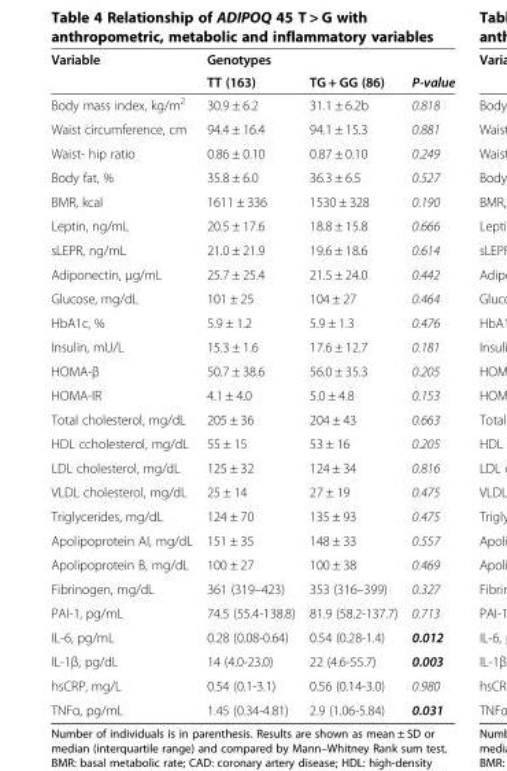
<table><thead><tr><td rowspan="2">Variable</td><td rowspan="2">Genotypes TT (163)</td><td rowspan="2">TG + GG (86)</td><td rowspan="2">P-value</td></tr><tr></tr></thead><tbody><tr><td>Body mass index, kg/m<sup>2</sup></td><td>30.9 ± 6.2</td><td>31.1 ± 6.2b</td><td>0.818</td></tr><tr><td>Waist circumference, cm</td><td>94.4 ± 16.4</td><td>94.1 ± 15.3</td><td>0.881</td></tr><tr><td>Waist- hip ratio</td><td>0.86 ± 0.10</td><td>0.87 ± 0.10</td><td>0.249</td></tr><tr><td>Body fat, %</td><td>35.8 ± 6.0</td><td>36.3 ± 6.5</td><td>0.527</td></tr><tr><td>BMR, kcal</td><td>1611 ± 336</td><td>1530 ± 328</td><td>0.190</td></tr><tr><td>Leptin, ng/mL</td><td>20.5 ± 17.6</td><td>18.8 ± 15.8</td><td>0.666</td></tr><tr><td>sLEPR, ng/mL</td><td>21.0 ± 21.9</td><td>19.6 ± 18.6</td><td>0.614</td></tr><tr><td>Adiponectin, μg/mL</td><td>25.7 ± 25.4</td><td>21.5 ± 24.0</td><td>0.442</td></tr><tr><td>Glucose, mg/dL</td><td>101 ± 25</td><td>104 ± 27</td><td>0.464</td></tr><tr><td>HbA1c, %</td><td>5.9 ± 1.2</td><td>5.9 ± 1.3</td><td>0.476</td></tr><tr><td>Insulin, mU/L</td><td>15.3 ± 1.6</td><td>17.6 ± 12.7</td><td>0.181</td></tr><tr><td>HOMA-β</td><td>50.7 ± 38.6</td><td>56.0 ± 35.3</td><td>0.205</td></tr><tr><td>HOMA-IR</td><td>4.1 ± 4.0</td><td>5.0 ± 4.8</td><td>0.153</td></tr><tr><td>Total cholesterol, mg/dL</td><td>205 ± 36</td><td>204 ± 43</td><td>0.663</td></tr><tr><td>HDL ccholesterol, mg/dL</td><td>55 ± 15</td><td>53 ± 16</td><td>0.205</td></tr><tr><td>LDL cholesterol, mg/dL</td><td>125 ± 32</td><td>124 ± 34</td><td>0.816</td></tr><tr><td>VLDL cholesterol, mg/dL</td><td>25 ± 14</td><td>27 ± 19</td><td>0.475</td></tr><tr><td>Triglycerides, mg/dL</td><td>124 ± 70</td><td>135 ± 93</td><td>0.475</td></tr><tr><td>Apolipoprotein AI, mg/dL</td><td>151 ± 35</td><td>148 ± 33</td><td>0.557</td></tr><tr><td>Apolipoprotein B, mg/dL</td><td>100 ± 27</td><td>100 ± 38</td><td>0.469</td></tr><tr><td>Fibrinogen, mg/dL</td><td>361 (319–423)</td><td>353 (316–399)</td><td>0.327</td></tr><tr><td>PAI-1, pg/mL</td><td>74.5 (55.4-138.8)</td><td>81.9 (58.2-137.7)</td><td>0.713</td></tr><tr><td>IL-6, pg/mL</td><td>0.28 (0.08-0.64)</td><td>0.54 (0.28-1.4)</td><td>0.012</td></tr><tr><td>IL-1β, pg/dL</td><td>14 (4.0-23.0)</td><td>22 (4.6-55.7)</td><td>0.003</td></tr><tr><td>hsCRP, mg/L</td><td>0.54 (0.1-3.1)</td><td>0.56 (0.14-3.0)</td><td>0.980</td></tr><tr><td>TNFα, pg/mL</td><td>1.45 (0.34-4.81)</td><td>2.9 (1.06-5.84)</td><td>0.031</td></tr></tbody></table>